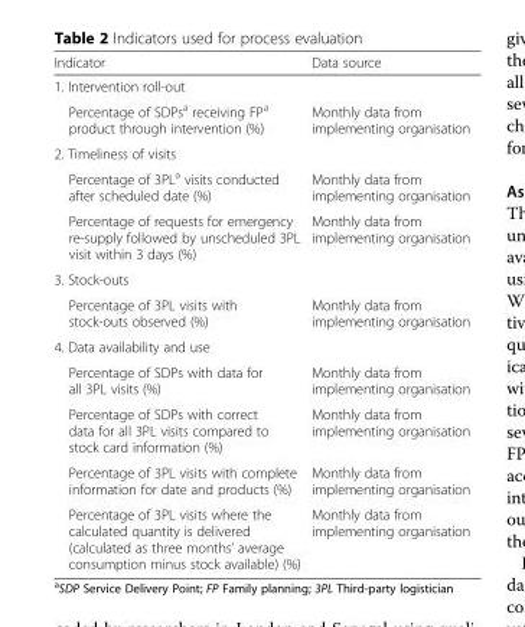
<table><thead><tr><td>Indicator</td><td>Data source</td></tr></thead><tbody><tr><td colspan="2">1. Intervention roll-out</td></tr><tr><td>Percentage of SDPs<sup>a</sup> receiving FP<sup>a</sup> product through intervention (%)</td><td>Monthly data from implementing organisation</td></tr><tr><td colspan="2">2. Timeliness of visits</td></tr><tr><td>Percentage of 3PL<sup>a</sup> visits conducted after scheduled date (%)</td><td>Monthly data from implementing organisation</td></tr><tr><td>Percentage of requests for emergency re-supply followed by unscheduled 3PL visit within 3 days (%)</td><td>Monthly data from implementing organisation</td></tr><tr><td colspan="2">3. Stock-outs</td></tr><tr><td>Percentage of 3PL visits with stock-outs observed (%)</td><td>Monthly data from implementing organisation</td></tr><tr><td colspan="2">4. Data availability and use</td></tr><tr><td>Percentage of SDPs with data for all 3PL visits (%)</td><td>Monthly data from implementing organisation</td></tr><tr><td>Percentage of SDPs with correct data for all 3PL visits compared to stock card information (%)</td><td>Monthly data from implementing organisation</td></tr><tr><td>Percentage of 3PL visits with complete information for date and products (%)</td><td>Monthly data from implementing organisation</td></tr><tr><td>Percentage of 3PL visits where the calculated quantity is delivered (calculated as three months’ average consumption minus stock available) (%)</td><td>Monthly data from implementing organisation</td></tr></tbody></table>